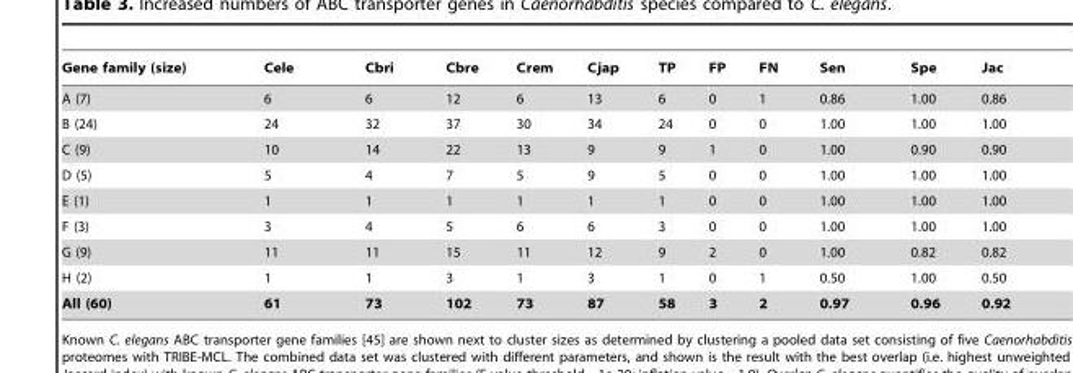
<table><thead><tr><td>Gene family (size)</td><td>Cele</td><td>Cbri</td><td>Cbre</td><td>Crem</td><td>Cjap</td><td>TP</td><td>FP</td><td>FN</td><td>Sen</td><td>Spe</td><td>Jac</td></tr></thead><tbody><tr><td>A (7)</td><td>6</td><td>6</td><td>12</td><td>6</td><td>13</td><td>6</td><td>0</td><td>1</td><td>0.86</td><td>1.00</td><td>0.86</td></tr><tr><td>B (24)</td><td>24</td><td>32</td><td>37</td><td>30</td><td>34</td><td>24</td><td>0</td><td>0</td><td>1.00</td><td>1.00</td><td>1.00</td></tr><tr><td>C (9)</td><td>10</td><td>14</td><td>22</td><td>13</td><td>9</td><td>9</td><td>1</td><td>0</td><td>1.00</td><td>0.90</td><td>0.90</td></tr><tr><td>D (5)</td><td>5</td><td>4</td><td>7</td><td>5</td><td>9</td><td>5</td><td>0</td><td>0</td><td>1.00</td><td>1.00</td><td>1.00</td></tr><tr><td>E (1)</td><td>1</td><td>1</td><td>1</td><td>1</td><td>1</td><td>1</td><td>0</td><td>0</td><td>1.00</td><td>1.00</td><td>1.00</td></tr><tr><td>F (3)</td><td>3</td><td>4</td><td>5</td><td>6</td><td>6</td><td>3</td><td>0</td><td>0</td><td>1.00</td><td>1.00</td><td>1.00</td></tr><tr><td>G (9)</td><td>11</td><td>11</td><td>15</td><td>11</td><td>12</td><td>9</td><td>2</td><td>0</td><td>1.00</td><td>0.82</td><td>0.82</td></tr><tr><td>H (2)</td><td>1</td><td>1</td><td>3</td><td>1</td><td>3</td><td>1</td><td>0</td><td>1</td><td>0.50</td><td>1.00</td><td>0.50</td></tr><tr><td>All (60)</td><td>61</td><td>73</td><td>102</td><td>73</td><td>87</td><td>58</td><td>3</td><td>2</td><td>0.97</td><td>0.96</td><td>0.92</td></tr></tbody></table>